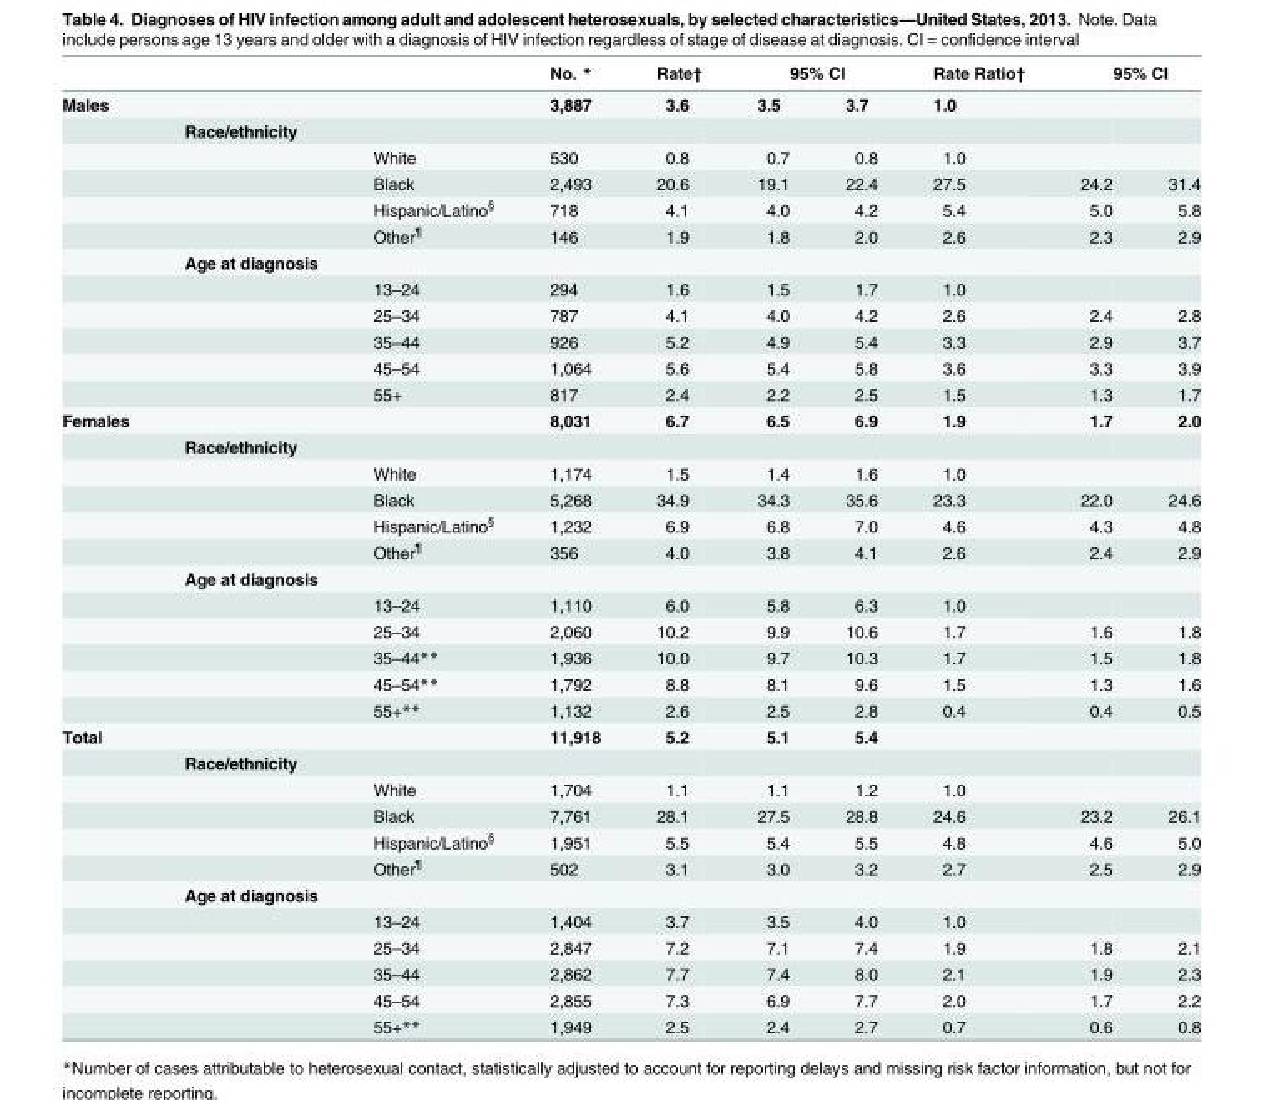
<table><thead><tr><td rowspan="2">Males</td><td rowspan="2"></td><td rowspan="2"></td><td rowspan="2">No. * 3,887</td><td rowspan="2">Rate† 3.6</td><td colspan="2">95% CI</td><td rowspan="2">Rate Ratio† 1.0</td><td colspan="2">95% CI</td></tr><tr><td>3.5</td><td>3.7</td><td></td><td></td></tr></thead><tbody><tr><td></td><td>Race/ethnicity</td><td></td><td></td><td></td><td></td><td></td><td></td><td></td><td></td></tr><tr><td></td><td></td><td>White</td><td>530</td><td>0.8</td><td>0.7</td><td>0.8</td><td>1.0</td><td></td><td></td></tr><tr><td></td><td></td><td>Black</td><td>2,493</td><td>20.6</td><td>19.1</td><td>22.4</td><td>27.5</td><td>24.2</td><td>31.4</td></tr><tr><td></td><td></td><td>Hispanic/Latino<sup>§</sup></td><td>718</td><td>4.1</td><td>4.0</td><td>4.2</td><td>5.4</td><td>5.0</td><td>5.8</td></tr><tr><td></td><td></td><td>Other<sup>¶</sup></td><td>146</td><td>1.9</td><td>1.8</td><td>2.0</td><td>2.6</td><td>2.3</td><td>2.9</td></tr><tr><td></td><td>Age at diagnosis</td><td></td><td></td><td></td><td></td><td></td><td></td><td></td><td></td></tr><tr><td></td><td></td><td>13–24</td><td>294</td><td>1.6</td><td>1.5</td><td>1.7</td><td>1.0</td><td></td><td></td></tr><tr><td></td><td></td><td>25–34</td><td>787</td><td>4.1</td><td>4.0</td><td>4.2</td><td>2.6</td><td>2.4</td><td>2.8</td></tr><tr><td></td><td></td><td>35–44</td><td>926</td><td>5.2</td><td>4.9</td><td>5.4</td><td>3.3</td><td>2.9</td><td>3.7</td></tr><tr><td></td><td></td><td>45–54</td><td>1,064</td><td>5.6</td><td>5.4</td><td>5.8</td><td>3.6</td><td>3.3</td><td>3.9</td></tr><tr><td></td><td></td><td>55+</td><td>817</td><td>2.4</td><td>2.2</td><td>2.5</td><td>1.5</td><td>1.3</td><td>1.7</td></tr><tr><td rowspan="12">Females</td><td></td><td></td><td>8,031</td><td>6.7</td><td>6.5</td><td>6.9</td><td>1.9</td><td>1.7</td><td>2.0</td></tr><tr><td>Race/ethnicity</td><td></td><td></td><td colspan="2"></td><td></td><td></td><td></td><td></td></tr><tr><td></td><td>White</td><td>1,174</td><td>1.5</td><td>1.4</td><td>1.6</td><td>1.0</td><td></td><td></td></tr><tr><td></td><td>Black</td><td>5,268</td><td>34.9</td><td>34.3</td><td>35.6</td><td>23.3</td><td>22.0</td><td>24.6</td></tr><tr><td></td><td>Hispanic/Latino<sup>§</sup></td><td>1,232</td><td>6.9</td><td>6.8</td><td>7.0</td><td>4.6</td><td>4.3</td><td>4.8</td></tr><tr><td></td><td>Other<sup>¶</sup></td><td>356</td><td>4.0</td><td>3.8</td><td>4.1</td><td>2.6</td><td>2.4</td><td>2.9</td></tr><tr><td>Age at diagnosis</td><td></td><td></td><td></td><td></td><td></td><td></td><td></td><td></td></tr><tr><td></td><td>13–24</td><td>1,110</td><td>6.0</td><td>5.8</td><td>6.3</td><td>1.0</td><td></td><td></td></tr><tr><td></td><td>25–34</td><td>2,060</td><td>10.2</td><td>9.9</td><td>10.6</td><td>1.7</td><td>1.6</td><td>1.8</td></tr><tr><td></td><td>35–44**</td><td>1,936</td><td>10.0</td><td>9.7</td><td>10.3</td><td>1.7</td><td>1.5</td><td>1.8</td></tr><tr><td></td><td>45–54**</td><td>1,792</td><td>8.8</td><td>8.1</td><td>9.6</td><td>1.5</td><td>1.3</td><td>1.6</td></tr><tr><td></td><td>55+**</td><td>1,132</td><td>2.6</td><td>2.5</td><td>2.8</td><td>0.4</td><td>0.4</td><td>0.5</td></tr><tr><td rowspan="12">Total</td><td></td><td></td><td>11,918</td><td>5.2</td><td>5.1</td><td>5.4</td><td></td><td></td><td></td></tr><tr><td>Race/ethnicity</td><td></td><td></td><td></td><td></td><td></td><td></td><td></td><td></td></tr><tr><td></td><td>White</td><td>1,704</td><td>1.1</td><td>1.1</td><td>1.2</td><td>1.0</td><td></td><td></td></tr><tr><td></td><td>Black</td><td>7,761</td><td>28.1</td><td>27.5</td><td>28.8</td><td>24.6</td><td>23.2</td><td>26.1</td></tr><tr><td></td><td>Hispanic/Latino<sup>§</sup></td><td>1,951</td><td>5.5</td><td>5.4</td><td>5.5</td><td>4.8</td><td>4.6</td><td>5.0</td></tr><tr><td></td><td>Other<sup>¶</sup></td><td>502</td><td>3.1</td><td>3.0</td><td>3.2</td><td>2.7</td><td>2.5</td><td>2.9</td></tr><tr><td>Age at diagnosis</td><td></td><td></td><td></td><td></td><td></td><td></td><td></td><td></td></tr><tr><td></td><td>13–24</td><td>1,404</td><td>3.7</td><td>3.5</td><td>4.0</td><td>1.0</td><td></td><td></td></tr><tr><td></td><td>25–34</td><td>2,847</td><td>7.2</td><td>7.1</td><td>7.4</td><td>1.9</td><td>1.8</td><td>2.1</td></tr><tr><td></td><td>35–44</td><td>2,862</td><td>7.7</td><td>7.4</td><td>8.0</td><td>2.1</td><td>1.9</td><td>2.3</td></tr><tr><td></td><td>45–54</td><td>2,855</td><td>7.3</td><td>6.9</td><td>7.7</td><td>2.0</td><td>1.7</td><td>2.2</td></tr><tr><td></td><td>55+**</td><td>1,949</td><td>2.5</td><td>2.4</td><td>2.7</td><td>0.7</td><td>0.6</td><td>0.8</td></tr></tbody></table>